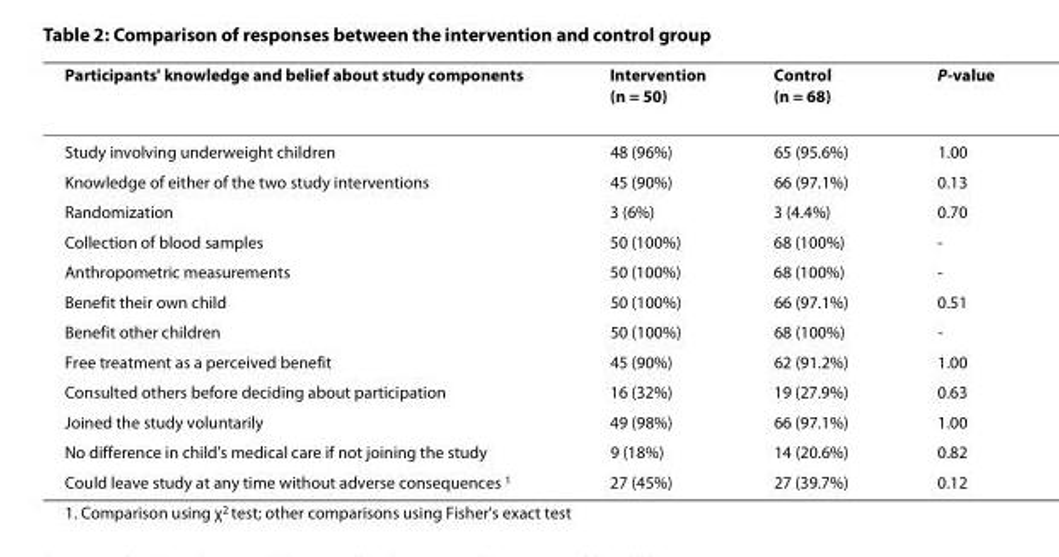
<table><thead><tr><td>Participants&#x27; knowledge and belief about study components</td><td>Intervention (n = 50)</td><td>Control (n = 68)</td><td>P-value</td></tr></thead><tbody><tr><td>Study involving underweight children</td><td>48 (96%)</td><td>65 (95.6%)</td><td>1.00</td></tr><tr><td>Knowledge of either of the two study interventions</td><td>45 (90%)</td><td>66 (97.1%)</td><td>0.13</td></tr><tr><td>Randomization</td><td>3 (6%)</td><td>3 (4.4%)</td><td>0.70</td></tr><tr><td>Collection of blood samples</td><td>50 (100%)</td><td>68 (100%)</td><td>-</td></tr><tr><td>Anthropometric measurements</td><td>50 (100%)</td><td>68 (100%)</td><td>-</td></tr><tr><td>Benefit their own child</td><td>50 (100%)</td><td>66 (97.1%)</td><td>0.51</td></tr><tr><td>Benefit other children</td><td>50 (100%)</td><td>68 (100%)</td><td>-</td></tr><tr><td>Free treatment as a perceived benefit</td><td>45 (90%)</td><td>62 (91.2%)</td><td>1.00</td></tr><tr><td>Consulted others before deciding about participation</td><td>16 (32%)</td><td>19 (27.9%)</td><td>0.63</td></tr><tr><td>Joined the study voluntarily</td><td>49 (98%)</td><td>66 (97.1%)</td><td>1.00</td></tr><tr><td>No difference in child&#x27;s medical care if not joining the study</td><td>9 (18%)</td><td>14 (20.6%)</td><td>0.82</td></tr><tr><td>Could leave study at any time without adverse consequences <sup>1</sup></td><td>27 (45%)</td><td>27 (39.7%)</td><td>0.12</td></tr></tbody></table>